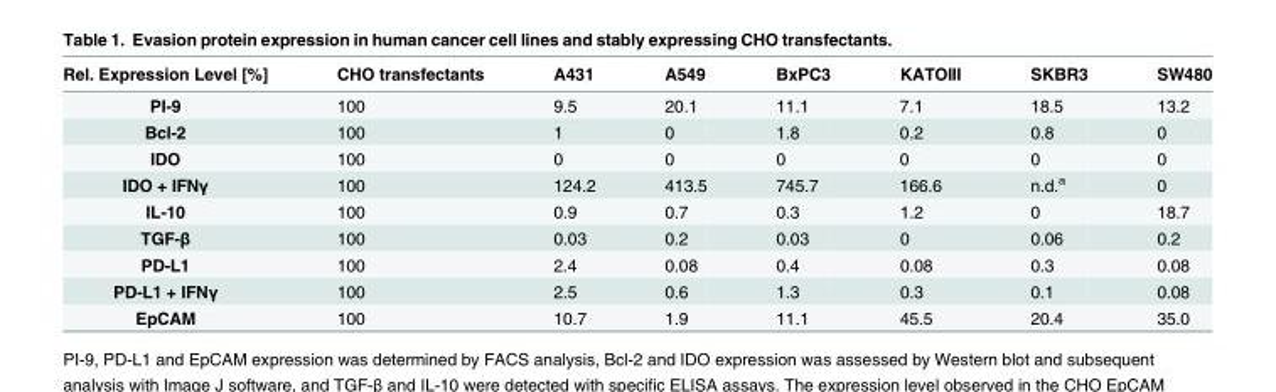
<table><thead><tr><td>Rel. Expression Level [%]</td><td>CHO transfectants</td><td>A431</td><td>A549</td><td>BxPC3</td><td>KATOIII</td><td>SKBR3</td><td>SW480</td></tr></thead><tbody><tr><td>PI-9</td><td>100</td><td>9.5</td><td>20.1</td><td>11.1</td><td>7.1</td><td>18.5</td><td>13.2</td></tr><tr><td>Bcl-2</td><td>100</td><td>1</td><td>0</td><td>1.8</td><td>0.2</td><td>0.8</td><td>0</td></tr><tr><td>IDO</td><td>100</td><td>0</td><td>0</td><td>0</td><td>0</td><td>0</td><td>0</td></tr><tr><td>IDO + IFNγ</td><td>100</td><td>124.2</td><td>413.5</td><td>745.7</td><td>166.6</td><td>n.d.<sup>a</sup></td><td>0</td></tr><tr><td>IL-10</td><td>100</td><td>0.9</td><td>0.7</td><td>0.3</td><td>1.2</td><td>0</td><td>18.7</td></tr><tr><td>TGF-β</td><td>100</td><td>0.03</td><td>0.2</td><td>0.03</td><td>0</td><td>0.06</td><td>0.2</td></tr><tr><td>PD-L1</td><td>100</td><td>2.4</td><td>0.08</td><td>0.4</td><td>0.08</td><td>0.3</td><td>0.08</td></tr><tr><td>PD-L1 + IFNγ</td><td>100</td><td>2.5</td><td>0.6</td><td>1.3</td><td>0.3</td><td>0.1</td><td>0.08</td></tr><tr><td>EpCAM</td><td>100</td><td>10.7</td><td>1.9</td><td>11.1</td><td>45.5</td><td>20.4</td><td>35.0</td></tr></tbody></table>